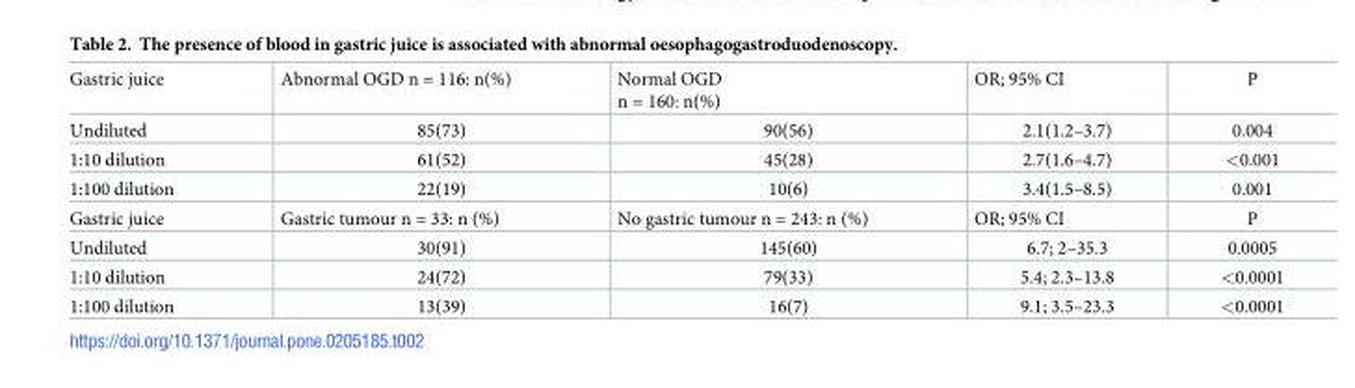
<table><tbody><tr><td>Gastric juice</td><td>Abnormal OGD n = 116: n(%)</td><td>Normal OGD n = 160: n(%)</td><td>OR; 95% CI</td><td>P</td></tr><tr><td>Undiluted</td><td>85(73)</td><td>90(56)</td><td>2.1(1.2–3.7)</td><td>0.004</td></tr><tr><td>1:10 dilution</td><td>61(52)</td><td>45(28)</td><td>2.7(1.6–4.7)</td><td>&lt;0.001</td></tr><tr><td>1:100 dilution</td><td>22(19)</td><td>10(6)</td><td>3.4(1.5–8.5)</td><td>0.001</td></tr><tr><td>Gastric juice</td><td>Gastric tumour n = 33: n (%)</td><td>No gastric tumour n = 243: n (%)</td><td>OR; 95% CI</td><td>P</td></tr><tr><td>Undiluted</td><td>30(91)</td><td>145(60)</td><td>6.7; 2–35.3</td><td>0.0005</td></tr><tr><td>1:10 dilution</td><td>24(72)</td><td>79(33)</td><td>5.4; 2.3–13.8</td><td>&lt;0.0001</td></tr><tr><td>1:100 dilution</td><td>13(39)</td><td>16(7)</td><td>9.1; 3.5–23.3</td><td>&lt;0.0001</td></tr></tbody></table>